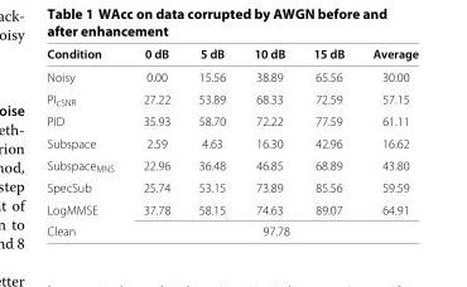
<table><thead><tr><td>Condition</td><td>0 dB</td><td>5 dB</td><td>10 dB</td><td>15 dB</td><td>Average</td></tr></thead><tbody><tr><td>Noisy</td><td>0.00</td><td>15.56</td><td>38.89</td><td>65.56</td><td>30.00</td></tr><tr><td>PI<sub>cSNR</sub></td><td>27.22</td><td>53.89</td><td>68.33</td><td>72.59</td><td>57.15</td></tr><tr><td>PID</td><td>35.93</td><td>58.70</td><td>72.22</td><td>77.59</td><td>61.11</td></tr><tr><td>Subspace</td><td>2.59</td><td>4.63</td><td>16.30</td><td>42.96</td><td>16.62</td></tr><tr><td>Subspace<sub>MNS</sub></td><td>22.96</td><td>36.48</td><td>46.85</td><td>68.89</td><td>43.80</td></tr><tr><td>SpecSub</td><td>25.74</td><td>53.15</td><td>73.89</td><td>85.56</td><td>59.59</td></tr><tr><td>LogMMSE</td><td>37.78</td><td>58.15</td><td>74.63</td><td>89.07</td><td>64.91</td></tr><tr><td>Clean</td><td colspan="5">97.78</td></tr></tbody></table>